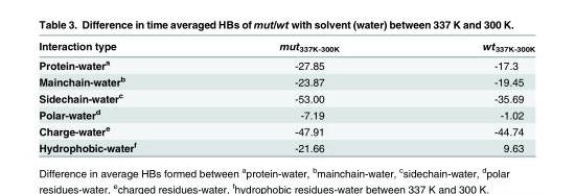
<table><thead><tr><td>Interaction type</td><td>mut<sub>337K-300K</sub></td><td>wt<sub>337K-300K</sub></td></tr></thead><tbody><tr><td>Protein-water<sup>a</sup></td><td>-27.85</td><td>-17.3</td></tr><tr><td>Mainchain-water<sup>b</sup></td><td>-23.87</td><td>-19.45</td></tr><tr><td>Sidechain-water<sup>c</sup></td><td>-53.00</td><td>-35.69</td></tr><tr><td>Polar-water<sup>d</sup></td><td>-7.19</td><td>-1.02</td></tr><tr><td>Charge-water<sup>e</sup></td><td>-47.91</td><td>-44.74</td></tr><tr><td>Hydrophobic-water<sup>f</sup></td><td>-21.66</td><td>9.63</td></tr></tbody></table>